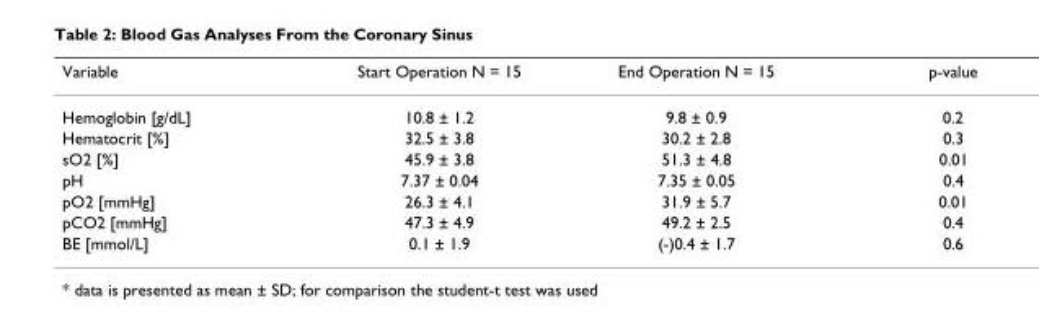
<table><thead><tr><td>Variable</td><td>Start Operation N = 15</td><td>End Operation N = 15</td><td>p-value</td></tr></thead><tbody><tr><td>Hemoglobin [g/dL]</td><td>10.8 ± 1.2</td><td>9.8 ± 0.9</td><td>0.2</td></tr><tr><td>Hematocrit [%]</td><td>32.5 ± 3.8</td><td>30.2 ± 2.8</td><td>0.3</td></tr><tr><td>sO2 [%]</td><td>45.9 ± 3.8</td><td>51.3 ± 4.8</td><td>0.01</td></tr><tr><td>pH</td><td>7.37 ± 0.04</td><td>7.35 ± 0.05</td><td>0.4</td></tr><tr><td>pO2 [mmHg]</td><td>26.3 ± 4.1</td><td>31.9 ± 5.7</td><td>0.01</td></tr><tr><td>pCO2 [mmHg]</td><td>47.3 ± 4.9</td><td>49.2 ± 2.5</td><td>0.4</td></tr><tr><td>BE [mmol/L]</td><td>0.1 ± 1.9</td><td>(-)0.4 ± 1.7</td><td>0.6</td></tr></tbody></table>